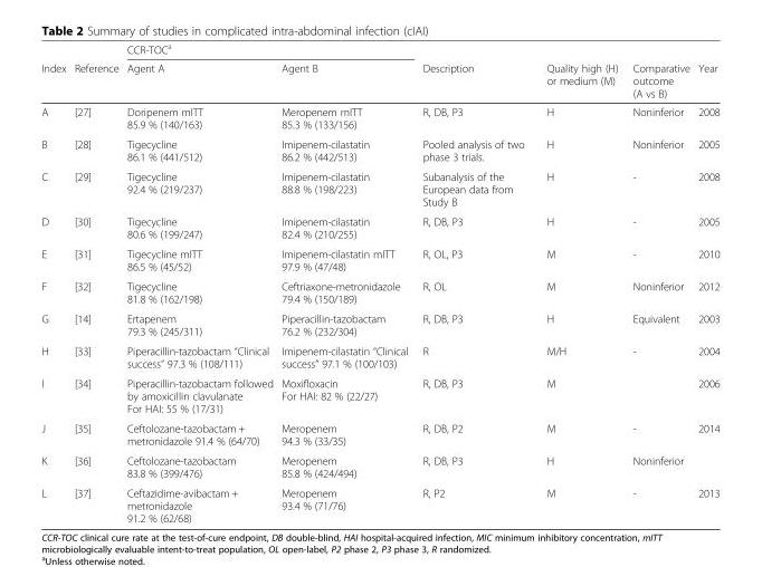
<table><thead><tr><td rowspan="2">Index</td><td rowspan="2">Reference</td><td colspan="2">CCR-TOC<sup>a</sup></td><td rowspan="2">Description</td><td rowspan="2">Quality high (H) or medium (M)</td><td rowspan="2">Comparative outcome (A vs B)</td><td rowspan="2">Year</td></tr><tr><td>Agent A</td><td>Agent B</td></tr></thead><tbody><tr><td>A</td><td>[27]</td><td>Doripenem mITT 85.9 % (140/163)</td><td>Meropenem mITT 85.3 % (133/156)</td><td>R, DB, P3</td><td>H</td><td>Noninferior</td><td>2008</td></tr><tr><td>B</td><td>[28]</td><td>Tigecycline 86.1 % (441/512)</td><td>Imipenem-cilastatin 86.2 % (442/513)</td><td>Pooled analysis of two phase 3 trials.</td><td>H</td><td>Noninferior</td><td>2005</td></tr><tr><td>C</td><td>[29]</td><td>Tigecycline 92.4 % (219/237)</td><td>Imipenem-cilastatin 88.8 % (198/223)</td><td>Subanalysis of the European data from Study B</td><td>H</td><td>-</td><td>2008</td></tr><tr><td>D</td><td>[30]</td><td>Tigecycline 80.6 % (199/247)</td><td>Imipenem-cilastatin 82.4 % (210/255)</td><td>R, DB, P3</td><td>H</td><td>-</td><td>2005</td></tr><tr><td>E</td><td>[31]</td><td>Tigecycline mITT 86.5 % (45/52)</td><td>Imipenem-cilastatin mITT 97.9 % (47/48)</td><td>R, OL, P3</td><td>M</td><td>-</td><td>2010</td></tr><tr><td>F</td><td>[32]</td><td>Tigecycline 81.8 % (162/198)</td><td>Ceftriaxone-metronidazole 79.4 % (150/189)</td><td>R, OL</td><td>M</td><td>Noninferior</td><td>2012</td></tr><tr><td>G</td><td>[14]</td><td>Ertapenem 79.3 % (245/311)</td><td>Piperacillin-tazobactam 76.2 % (232/304)</td><td>R, DB, P3</td><td>H</td><td>Equivalent</td><td>2003</td></tr><tr><td>H</td><td>[33]</td><td>Piperacillin-tazobactam “Clinical success” 97.3 % (108/111)</td><td>Imipenem-cilastatin “Clinical success” 97.1 % (100/103)</td><td>R</td><td>M/H</td><td>-</td><td>2004</td></tr><tr><td>I</td><td>[34]</td><td>Piperacillin-tazobactam followed by amoxicillin clavulanate For HAI: 55 % (17/31)</td><td>Moxifloxacin For HAI: 82 % (22/27)</td><td>R, DB, P3</td><td>M</td><td></td><td>2006</td></tr><tr><td>J</td><td>[35]</td><td>Ceftolozane-tazobactam + metronidazole 91.4 % (64/70)</td><td>Meropenem 94.3 % (33/35)</td><td>R, DB, P2</td><td>M</td><td>-</td><td>2014</td></tr><tr><td>K</td><td>[36]</td><td>Ceftolozane-tazobactam 83.8 % (399/476)</td><td>Meropenem 85.8 % (424/494)</td><td>R, DB, P3</td><td>H</td><td>Noninferior</td><td></td></tr><tr><td>L</td><td>[37]</td><td>Ceftazidime-avibactam + metronidazole 91.2 % (62/68)</td><td>Meropenem 93.4 % (71/76)</td><td>R, P2</td><td>M</td><td>-</td><td>2013</td></tr></tbody></table>